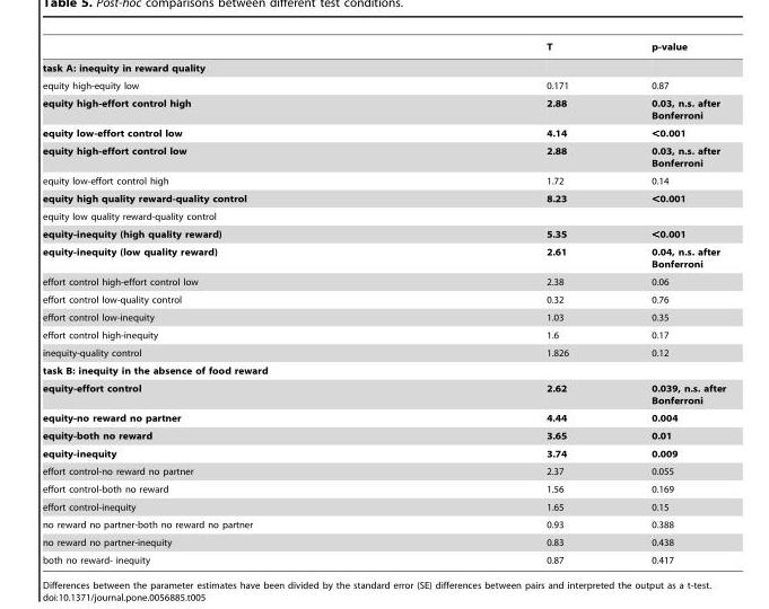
<table><thead><tr><td></td><td>T</td><td>p-value</td></tr></thead><tbody><tr><td colspan="3">task A: inequity in reward quality</td></tr><tr><td>equity high-equity low</td><td>0.171</td><td>0.87</td></tr><tr><td>equity high-effort control high</td><td>2.88</td><td>0.03, n.s. after Bonferroni</td></tr><tr><td>equity low-effort control low</td><td>4.14</td><td>&lt;0.001</td></tr><tr><td>equity high-effort control low</td><td>2.88</td><td>0.03, n.s. after Bonferroni</td></tr><tr><td>equity low-effort control high</td><td>1.72</td><td>0.14</td></tr><tr><td>equity high quality reward-quality control</td><td>8.23</td><td>&lt;0.001</td></tr><tr><td colspan="3">equity low quality reward-quality control</td></tr><tr><td>equity-inequity (high quality reward)</td><td>5.35</td><td>&lt;0.001</td></tr><tr><td>equity-inequity (low quality reward)</td><td>2.61</td><td>0.04, n.s. after Bonferroni</td></tr><tr><td>effort control high-effort control low</td><td>2.38</td><td>0.06</td></tr><tr><td>effort control low-quality control</td><td>0.32</td><td>0.76</td></tr><tr><td>effort control low-inequity</td><td>1.03</td><td>0.35</td></tr><tr><td>effort control high-inequity</td><td>1.6</td><td>0.17</td></tr><tr><td>inequity-quality control</td><td>1.826</td><td>0.12</td></tr><tr><td colspan="3">task B: inequity in the absence of food reward</td></tr><tr><td>equity-effort control</td><td>2.62</td><td>0.039, n.s. after Bonferroni</td></tr><tr><td>equity-no reward no partner</td><td>4.44</td><td>0.004</td></tr><tr><td>equity-both no reward</td><td>3.65</td><td>0.01</td></tr><tr><td>equity-inequity</td><td>3.74</td><td>0.009</td></tr><tr><td>effort control-no reward no partner</td><td>2.37</td><td>0.055</td></tr><tr><td>effort control-both no reward</td><td>1.56</td><td>0.169</td></tr><tr><td>effort control-inequity</td><td>1.65</td><td>0.15</td></tr><tr><td>no reward no partner-both no reward no partner</td><td>0.93</td><td>0.388</td></tr><tr><td>no reward no partner-inequity</td><td>0.83</td><td>0.438</td></tr><tr><td>both no reward- inequity</td><td>0.87</td><td>0.417</td></tr></tbody></table>